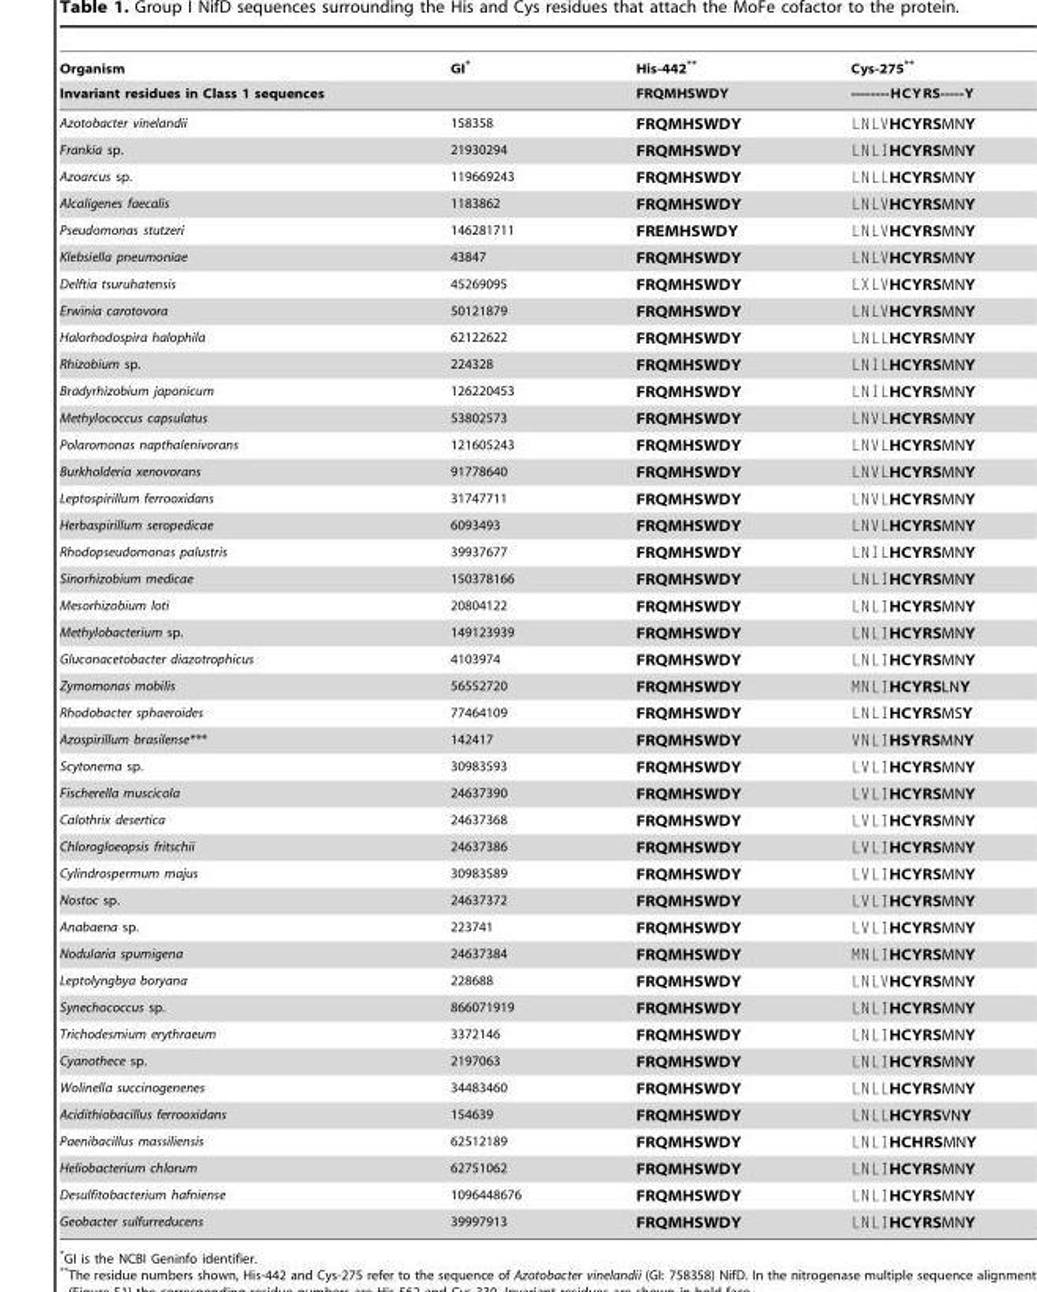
<table><thead><tr><td rowspan="2">Organism Invariant residues in Class 1 sequences</td><td rowspan="2">GI*</td><td rowspan="2">His-442** FRQMHSWDY</td><td rowspan="2">Cys-275** --------HCYRS-----Y</td></tr><tr></tr></thead><tbody><tr><td>Azotobacter vinelandii</td><td>158358</td><td>FRQMHSWDY</td><td>LNLVHCYRSMNY</td></tr><tr><td>Frankia sp.</td><td>21930294</td><td>FRQMHSWDY</td><td>LNLIHCYRSMNY</td></tr><tr><td>Azoarcus sp.</td><td>119669243</td><td>FRQMHSWDY</td><td>LNLLHCYRSMNY</td></tr><tr><td>Alcaligenes faecalis</td><td>1183862</td><td>FRQMHSWDY</td><td>LNLVHCYRSMNY</td></tr><tr><td>Pseudomonas stutzeri</td><td>146281711</td><td>FREMHSWDY</td><td>LNLVHCYRSMNY</td></tr><tr><td>Klebsiella pneumoniae</td><td>43847</td><td>FRQMHSWDY</td><td>LNLVHCYRSMNY</td></tr><tr><td>Delftia tsuruhatensis</td><td>45269095</td><td>FRQMHSWDY</td><td>LXLVHCYRSMNY</td></tr><tr><td>Erwinia carotovora</td><td>50121879</td><td>FRQMHSWDY</td><td>LNLVHCYRSMNY</td></tr><tr><td>Halorhodospira halophila</td><td>62122622</td><td>FRQMHSWDY</td><td>LNLLHCYRSMNY</td></tr><tr><td>Rhizobium sp.</td><td>224328</td><td>FRQMHSWDY</td><td>LNILHCYRSMNY</td></tr><tr><td>Bradyrhizobium japonicum</td><td>126220453</td><td>FRQMHSWDY</td><td>LNILHCYRSMNY</td></tr><tr><td>Methylococcus capsulatus</td><td>53802573</td><td>FRQMHSWDY</td><td>LNVLHCYRSMNY</td></tr><tr><td>Polaromonas napthalenivorans</td><td>121605243</td><td>FRQMHSWDY</td><td>LNVLHCYRSMNY</td></tr><tr><td>Burkholderia xenovorans</td><td>91778640</td><td>FRQMHSWDY</td><td>LNVLHCYRSMNY</td></tr><tr><td>Leptospirillum ferrooxidans</td><td>31747711</td><td>FRQMHSWDY</td><td>LNVLHCYRSMNY</td></tr><tr><td>Herbaspirillum seropedicae</td><td>6093493</td><td>FRQMHSWDY</td><td>LNVLHCYRSMNY</td></tr><tr><td>Rhodopseudomonas palustris</td><td>39937677</td><td>FRQMHSWDY</td><td>LNILHCYRSMNY</td></tr><tr><td>Sinorhizobium medicae</td><td>150378166</td><td>FRQMHSWDY</td><td>LNLIHCYRSMNY</td></tr><tr><td>Mesorhizobium loti</td><td>20804122</td><td>FRQMHSWDY</td><td>LNLIHCYRSMNY</td></tr><tr><td>Methylobacterium sp.</td><td>149123939</td><td>FRQMHSWDY</td><td>LNLIHCYRSMNY</td></tr><tr><td>Gluconacetobacter diazotrophicus</td><td>4103974</td><td>FRQMHSWDY</td><td>LNLIHCYRSMNY</td></tr><tr><td>Zymomonas mobilis</td><td>56552720</td><td>FRQMHSWDY</td><td>MNLIHCYRSLNY</td></tr><tr><td>Rhodobacter sphaeroides</td><td>77464109</td><td>FRQMHSWDY</td><td>LNLIHCYRSMSY</td></tr><tr><td>Azospirillum brasilense***</td><td>142417</td><td>FRQMHSWDY</td><td>VNLIHSYRSMNY</td></tr><tr><td>Scytonema sp.</td><td>30983593</td><td>FRQMHSWDY</td><td>LVLIHCYRSMNY</td></tr><tr><td>Fischerella muscicola</td><td>24637390</td><td>FRQMHSWDY</td><td>LVLIHCYRSMNY</td></tr><tr><td>Calothrix desertica</td><td>24637368</td><td>FRQMHSWDY</td><td>LVLIHCYRSMNY</td></tr><tr><td>Chlorogloeopsis fritschii</td><td>24637386</td><td>FRQMHSWDY</td><td>LVLIHCYRSMNY</td></tr><tr><td>Cylindrospermum majus</td><td>30983589</td><td>FRQMHSWDY</td><td>LVLIHCYRSMNY</td></tr><tr><td>Nostoc sp.</td><td>24637372</td><td>FRQMHSWDY</td><td>LVLIHCYRSMNY</td></tr><tr><td>Anabaena sp.</td><td>223741</td><td>FRQMHSWDY</td><td>LVLIHCYRSMNY</td></tr><tr><td>Nodularia spumigena</td><td>24637384</td><td>FRQMHSWDY</td><td>MNLIHCYRSMNY</td></tr><tr><td>Leptolyngbya boryana</td><td>228688</td><td>FRQMHSWDY</td><td>LNLVHCYRSMNY</td></tr><tr><td>Synechococcus sp.</td><td>866071919</td><td>FRQMHSWDY</td><td>LNLIHCYRSMNY</td></tr><tr><td>Trichodesmium erythraeum</td><td>3372146</td><td>FRQMHSWDY</td><td>LNLIHCYRSMNY</td></tr><tr><td>Cyanothece sp.</td><td>2197063</td><td>FRQMHSWDY</td><td>LNLIHCYRSMNY</td></tr><tr><td>Wolinella succinogenenes</td><td>34483460</td><td>FRQMHSWDY</td><td>LNLLHCYRSMNY</td></tr><tr><td>Acidithiobacillus ferrooxidans</td><td>154639</td><td>FRQMHSWDY</td><td>LNLLHCYRSVNY</td></tr><tr><td>Paenibacillus massiliensis</td><td>62512189</td><td>FRQMHSWDY</td><td>LNLIHCHRSMNY</td></tr><tr><td>Heliobacterium chlorum</td><td>62751062</td><td>FRQMHSWDY</td><td>LNLIHCYRSMNY</td></tr><tr><td>Desulfitobacterium hafniense</td><td>1096448676</td><td>FRQMHSWDY</td><td>LNLIHCYRSMNY</td></tr><tr><td>Geobacter sulfurreducens</td><td>39997913</td><td>FRQMHSWDY</td><td>LNLIHCYRSMNY</td></tr></tbody></table>